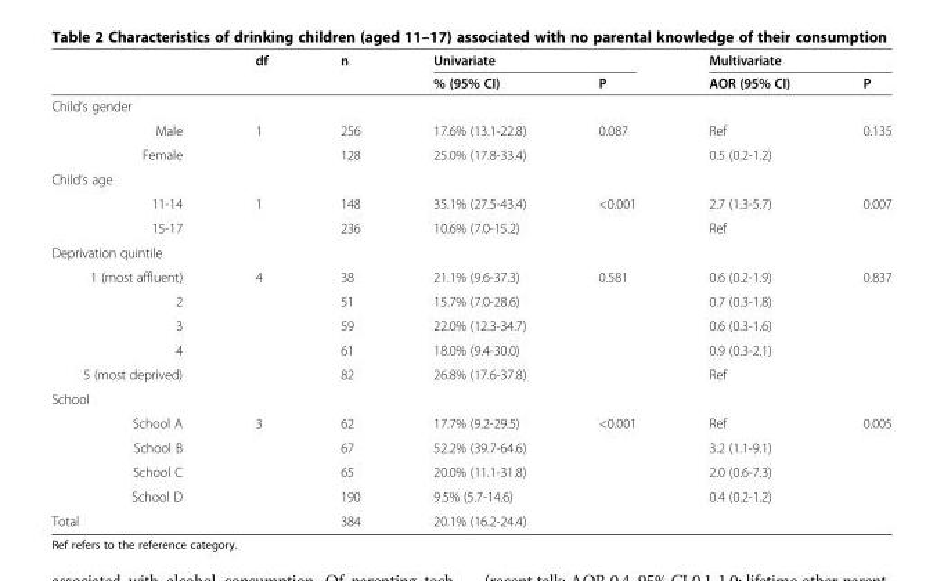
<table><thead><tr><td rowspan="2"></td><td rowspan="2">df</td><td rowspan="2">n</td><td colspan="2">Univariate</td><td colspan="2">Multivariate</td></tr><tr><td>% (95% CI)</td><td>P</td><td>AOR (95% CI)</td><td>P</td></tr></thead><tbody><tr><td colspan="7">Child’s gender</td></tr><tr><td>Male</td><td>1</td><td>256</td><td>17.6% (13.1-22.8)</td><td>0.087</td><td>Ref</td><td>0.135</td></tr><tr><td>Female</td><td></td><td>128</td><td>25.0% (17.8-33.4)</td><td></td><td>0.5 (0.2-1.2)</td><td></td></tr><tr><td colspan="7">Child’s age</td></tr><tr><td>11-14</td><td>1</td><td>148</td><td>35.1% (27.5-43.4)</td><td>&lt;0.001</td><td>2.7 (1.3-5.7)</td><td>0.007</td></tr><tr><td>15-17</td><td></td><td>236</td><td>10.6% (7.0-15.2)</td><td></td><td>Ref</td><td></td></tr><tr><td colspan="7">Deprivation quintile</td></tr><tr><td>1 (most affluent)</td><td>4</td><td>38</td><td>21.1% (9.6-37.3)</td><td>0.581</td><td>0.6 (0.2-1.9)</td><td>0.837</td></tr><tr><td>2</td><td></td><td>51</td><td>15.7% (7.0-28.6)</td><td></td><td>0.7 (0.3-1.8)</td><td></td></tr><tr><td>3</td><td></td><td>59</td><td>22.0% (12.3-34.7)</td><td></td><td>0.6 (0.3-1.6)</td><td></td></tr><tr><td>4</td><td></td><td>61</td><td>18.0% (9.4-30.0)</td><td></td><td>0.9 (0.3-2.1)</td><td></td></tr><tr><td>5 (most deprived)</td><td></td><td>82</td><td>26.8% (17.6-37.8)</td><td></td><td>Ref</td><td></td></tr><tr><td colspan="7">School</td></tr><tr><td>School A</td><td>3</td><td>62</td><td>17.7% (9.2-29.5)</td><td>&lt;0.001</td><td>Ref</td><td>0.005</td></tr><tr><td>School B</td><td></td><td>67</td><td>52.2% (39.7-64.6)</td><td></td><td>3.2 (1.1-9.1)</td><td></td></tr><tr><td>School C</td><td></td><td>65</td><td>20.0% (11.1-31.8)</td><td></td><td>2.0 (0.6-7.3)</td><td></td></tr><tr><td>School D</td><td></td><td>190</td><td>9.5% (5.7-14.6)</td><td></td><td>0.4 (0.2-1.2)</td><td></td></tr><tr><td>Total</td><td></td><td>384</td><td>20.1% (16.2-24.4)</td><td></td><td></td><td></td></tr></tbody></table>